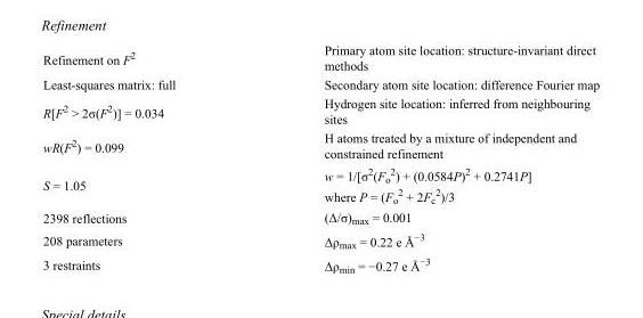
<table><tbody><tr><td>Refinement on F<sup>2</sup></td><td>Primary atom site location: structure-invariant direct methods</td></tr><tr><td>Least-squares matrix: full</td><td>Secondary atom site location: difference Fourier map</td></tr><tr><td>R[F<sup>2</sup> &gt; 2σ(F<sup>2</sup>)] = 0.034</td><td>Hydrogen site location: inferred from neighbouring sites</td></tr><tr><td>wR(F<sup>2</sup>) = 0.099</td><td>H atoms treated by a mixture of independent and constrained refinement</td></tr><tr><td>S = 1.05</td><td>w = 1/[σ<sup>2</sup>(F<sub>o</sub> <sup>2</sup>) + (0.0584P)<sup>2</sup> + 0.2741P] where P = (F<sub>o</sub> <sup>2</sup> + 2F<sub>c</sub> <sup>2</sup>)/3</td></tr><tr><td>2398 reflections</td><td>(Δ/σ)<sub>max</sub> = 0.001</td></tr><tr><td>208 parameters</td><td>Δρ<sub>max</sub> = 0.22 e Å<sup>−3</sup></td></tr><tr><td>3 restraints</td><td>Δρ<sub>min</sub> = −0.27 e Å<sup>−3</sup></td></tr></tbody></table>